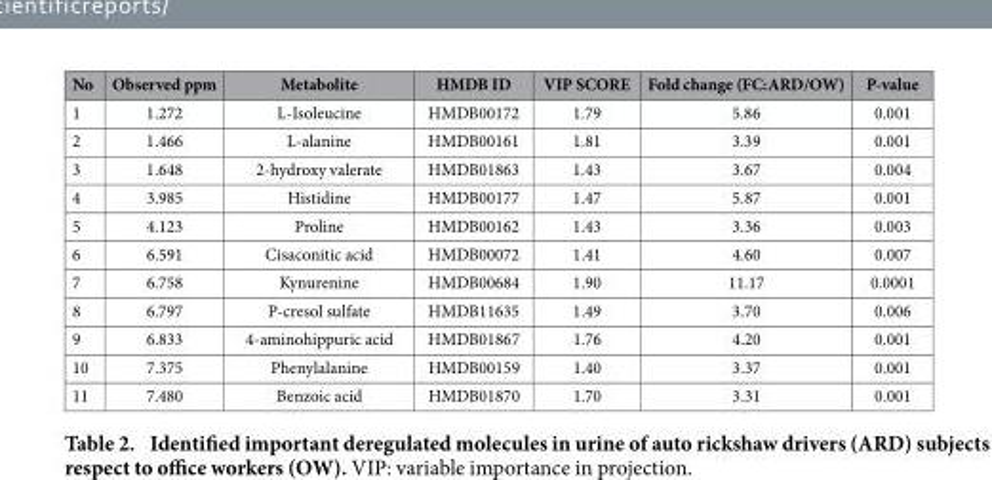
<table><thead><tr><td>No</td><td>Observed ppm</td><td>Metabolite</td><td>HMDB ID</td><td>VIP SCORE</td><td>Fold change (FC:ARD/OW)</td><td>P-value</td></tr></thead><tbody><tr><td>1</td><td>1.272</td><td>L-Isoleucine</td><td>HMDB00172</td><td>1.79</td><td>5.86</td><td>0.001</td></tr><tr><td>2</td><td>1.466</td><td>L-alanine</td><td>HMDB00161</td><td>1.81</td><td>3.39</td><td>0.001</td></tr><tr><td>3</td><td>1.648</td><td>2-hydroxy valerate</td><td>HMDB01863</td><td>1.43</td><td>3.67</td><td>0.004</td></tr><tr><td>4</td><td>3.985</td><td>Histidine</td><td>HMDB00177</td><td>1.47</td><td>5.87</td><td>0.001</td></tr><tr><td>5</td><td>4.123</td><td>Proline</td><td>HMDB00162</td><td>1.43</td><td>3.36</td><td>0.003</td></tr><tr><td>6</td><td>6.591</td><td>Cisaconitic acid</td><td>HMDB00072</td><td>1.41</td><td>4.60</td><td>0.007</td></tr><tr><td>7</td><td>6.758</td><td>Kynurenine</td><td>HMDB00684</td><td>1.90</td><td>11.17</td><td>0.0001</td></tr><tr><td>8</td><td>6.797</td><td>P-cresol sulfate</td><td>HMDB11635</td><td>1.49</td><td>3.70</td><td>0.006</td></tr><tr><td>9</td><td>6.833</td><td>4-aminohippuric acid</td><td>HMDB01867</td><td>1.76</td><td>4.20</td><td>0.001</td></tr><tr><td>10</td><td>7.375</td><td>Phenylalanine</td><td>HMDB00159</td><td>1.40</td><td>3.37</td><td>0.001</td></tr><tr><td>11</td><td>7.480</td><td>Benzoic acid</td><td>HMDB01870</td><td>1.70</td><td>3.31</td><td>0.001</td></tr></tbody></table>